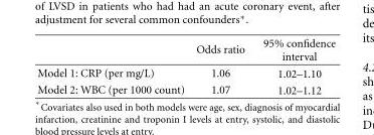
<table><thead><tr><td></td><td>Odds ratio</td><td>95% confidence interval</td></tr></thead><tbody><tr><td>Model 1: CRP (per mg/L)</td><td>1.06</td><td>1.02–1.10</td></tr><tr><td>Model 2: WBC (per 1000 count)</td><td>1.07</td><td>1.02–1.12</td></tr></tbody></table>